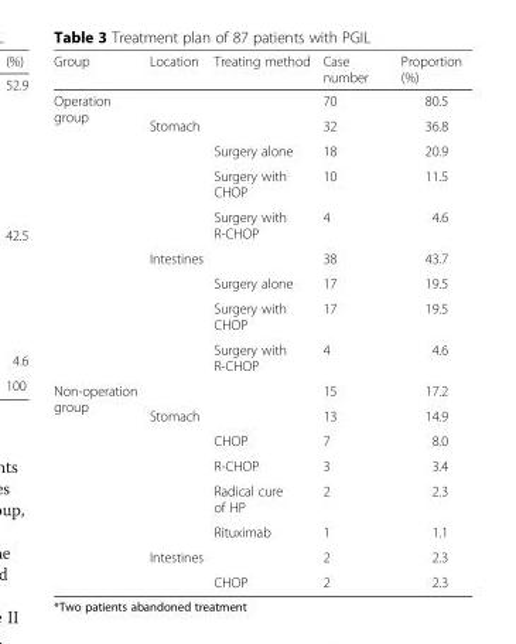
<table><thead><tr><td>Group</td><td>Location</td><td>Treating method</td><td>Case number</td><td>Proportion (%)</td></tr></thead><tbody><tr><td rowspan="9">Operation group</td><td></td><td></td><td>70</td><td>80.5</td></tr><tr><td>Stomach</td><td></td><td>32</td><td>36.8</td></tr><tr><td></td><td>Surgery alone</td><td>18</td><td>20.9</td></tr><tr><td></td><td>Surgery with CHOP</td><td>10</td><td>11.5</td></tr><tr><td></td><td>Surgery with R-CHOP</td><td>4</td><td>4.6</td></tr><tr><td>Intestines</td><td></td><td>38</td><td>43.7</td></tr><tr><td></td><td>Surgery alone</td><td>17</td><td>19.5</td></tr><tr><td></td><td>Surgery with CHOP</td><td>17</td><td>19.5</td></tr><tr><td></td><td>Surgery with R-CHOP</td><td>4</td><td>4.6</td></tr><tr><td rowspan="8">Non-operation group</td><td></td><td></td><td>15</td><td>17.2</td></tr><tr><td>Stomach</td><td></td><td>13</td><td>14.9</td></tr><tr><td></td><td>CHOP</td><td>7</td><td>8.0</td></tr><tr><td></td><td>R-CHOP</td><td>3</td><td>3.4</td></tr><tr><td></td><td>Radical cure of HP</td><td>2</td><td>2.3</td></tr><tr><td></td><td>Rituximab</td><td>1</td><td>1.1</td></tr><tr><td>Intestines</td><td></td><td>2</td><td>2.3</td></tr><tr><td></td><td>CHOP</td><td>2</td><td>2.3</td></tr></tbody></table>